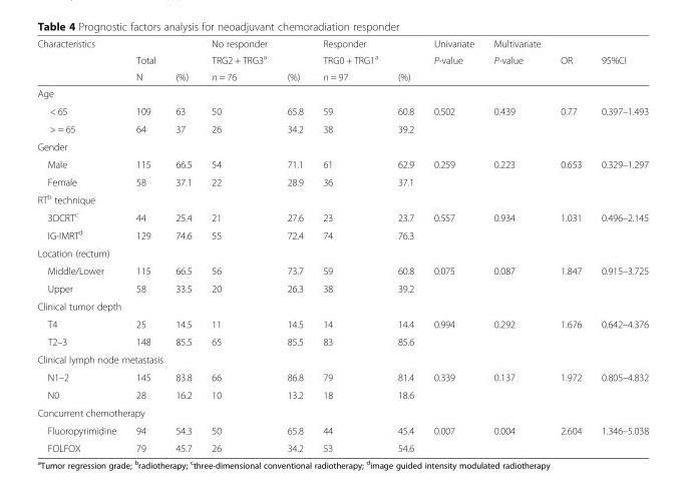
<table><thead><tr><td rowspan="3">Characteristics</td><td rowspan="3">Total N</td><td rowspan="3">(%)</td><td rowspan="3">No responder TRG2 + TRG3<sup>a</sup> n = 76</td><td rowspan="3">(%)</td><td rowspan="3">Responder TRG0 + TRG1<sup>a</sup> n = 97</td><td rowspan="3">(%)</td><td rowspan="3">Univariate P-value</td><td rowspan="3">Multivariate P-value</td><td rowspan="3">OR</td><td rowspan="3">95%CI</td></tr><tr></tr><tr></tr></thead><tbody><tr><td colspan="11">Age</td></tr><tr><td>&lt; 65</td><td>109</td><td>63</td><td>50</td><td>65.8</td><td>59</td><td>60.8</td><td>0.502</td><td>0.439</td><td>0.77</td><td>0.397–1.493</td></tr><tr><td>&gt; = 65</td><td>64</td><td>37</td><td>26</td><td>34.2</td><td>38</td><td>39.2</td><td></td><td></td><td></td><td></td></tr><tr><td colspan="11">Gender</td></tr><tr><td>Male</td><td>115</td><td>66.5</td><td>54</td><td>71.1</td><td>61</td><td>62.9</td><td>0.259</td><td>0.223</td><td>0.653</td><td>0.329–1.297</td></tr><tr><td>Female</td><td>58</td><td>37.1</td><td>22</td><td>28.9</td><td>36</td><td>37.1</td><td></td><td></td><td></td><td></td></tr><tr><td colspan="11">RT<sup>b</sup> technique</td></tr><tr><td>3DCRT<sup>c</sup></td><td>44</td><td>25.4</td><td>21</td><td>27.6</td><td>23</td><td>23.7</td><td>0.557</td><td>0.934</td><td>1.031</td><td>0.496–2.145</td></tr><tr><td>IG-IMRT<sup>d</sup></td><td>129</td><td>74.6</td><td>55</td><td>72.4</td><td>74</td><td>76.3</td><td></td><td></td><td></td><td></td></tr><tr><td colspan="11">Location (rectum)</td></tr><tr><td>Middle/Lower</td><td>115</td><td>66.5</td><td>56</td><td>73.7</td><td>59</td><td>60.8</td><td>0.075</td><td>0.087</td><td>1.847</td><td>0.915–3.725</td></tr><tr><td>Upper</td><td>58</td><td>33.5</td><td>20</td><td>26.3</td><td>38</td><td>39.2</td><td></td><td></td><td></td><td></td></tr><tr><td colspan="11">Clinical tumor depth</td></tr><tr><td>T4</td><td>25</td><td>14.5</td><td>11</td><td>14.5</td><td>14</td><td>14.4</td><td>0.994</td><td>0.292</td><td>1.676</td><td>0.642–4.376</td></tr><tr><td>T2–3</td><td>148</td><td>85.5</td><td>65</td><td>85.5</td><td>83</td><td>85.6</td><td></td><td></td><td></td><td></td></tr><tr><td colspan="11">Clinical lymph node metastasis</td></tr><tr><td>N1–2</td><td>145</td><td>83.8</td><td>66</td><td>86.8</td><td>79</td><td>81.4</td><td>0.339</td><td>0.137</td><td>1.972</td><td>0.805–4.832</td></tr><tr><td>N0</td><td>28</td><td>16.2</td><td>10</td><td>13.2</td><td>18</td><td>18.6</td><td></td><td></td><td></td><td></td></tr><tr><td colspan="11">Concurrent chemotherapy</td></tr><tr><td>Fluoropyrimidine</td><td>94</td><td>54.3</td><td>50</td><td>65.8</td><td>44</td><td>45.4</td><td>0.007</td><td>0.004</td><td>2.604</td><td>1.346–5.038</td></tr><tr><td>FOLFOX</td><td>79</td><td>45.7</td><td>26</td><td>34.2</td><td>53</td><td>54.6</td><td></td><td></td><td></td><td></td></tr></tbody></table>